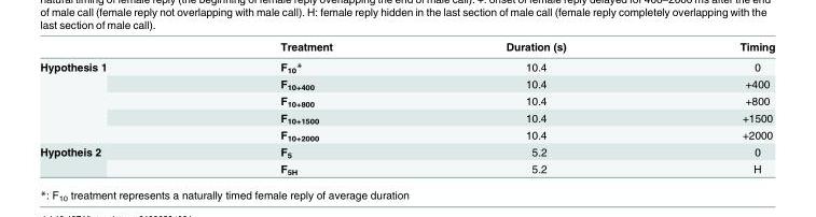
<table><thead><tr><td></td><td>Treatment</td><td>Duration (s)</td><td>Timing</td></tr></thead><tbody><tr><td rowspan="5">Hypothesis 1</td><td>F<sub>10</sub>*</td><td>10.4</td><td>0</td></tr><tr><td>F<sub>10+400</sub></td><td>10.4</td><td>+400</td></tr><tr><td>F<sub>10+800</sub></td><td>10.4</td><td>+800</td></tr><tr><td>F<sub>10+1500</sub></td><td>10.4</td><td>+1500</td></tr><tr><td>F<sub>10+2000</sub></td><td>10.4</td><td>+2000</td></tr><tr><td rowspan="2">Hypotheis 2</td><td>F<sub>5</sub></td><td>5.2</td><td>0</td></tr><tr><td>F<sub>5H</sub></td><td>5.2</td><td>H</td></tr></tbody></table>